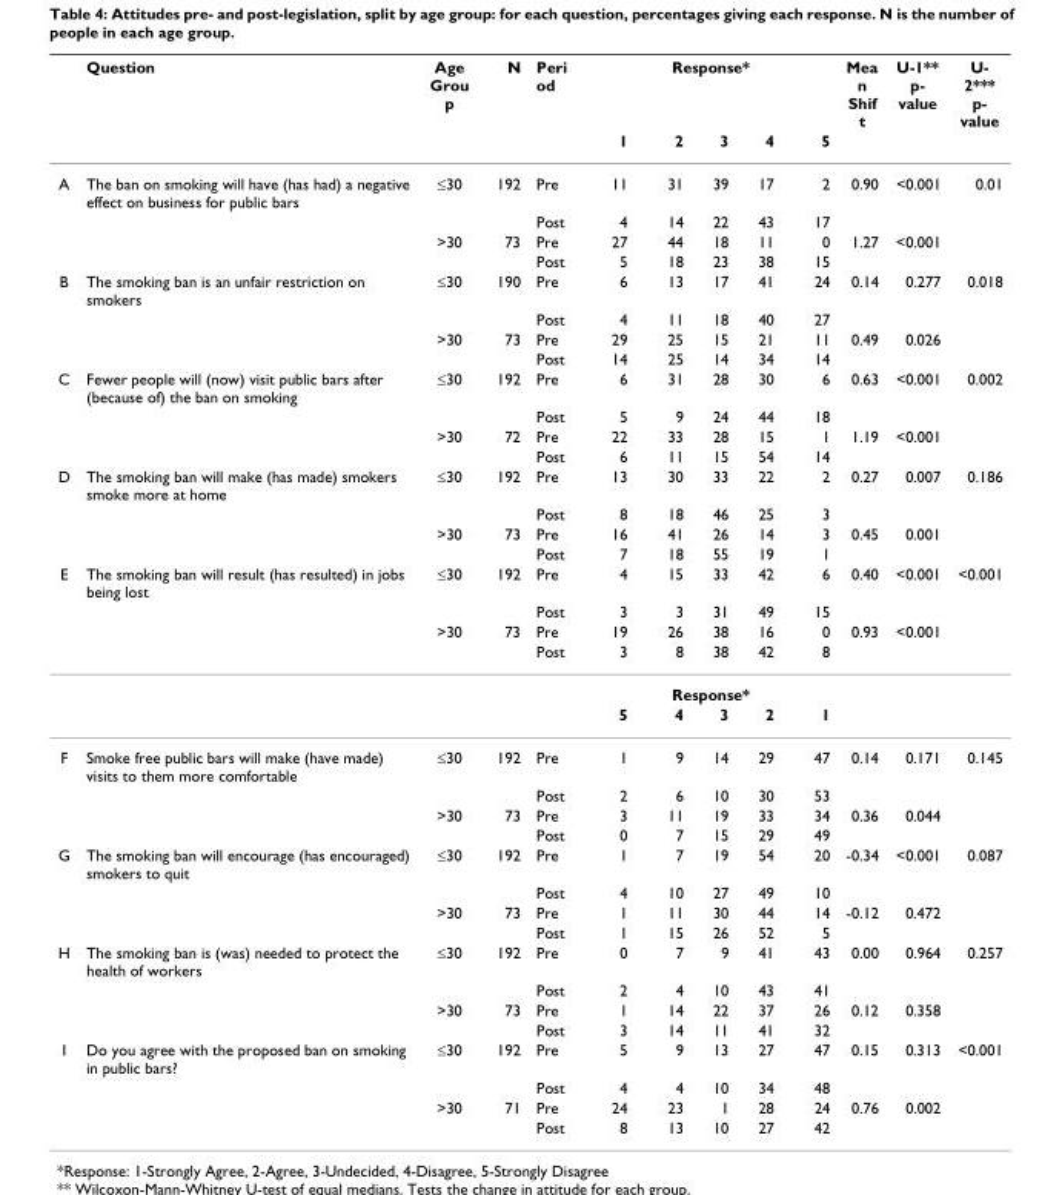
<table><thead><tr><td rowspan="2"></td><td rowspan="2">Question</td><td rowspan="2">Age Grou p</td><td rowspan="2">N</td><td rowspan="2">Peri od</td><td colspan="5">Response*</td><td rowspan="2">Mea n Shif t</td><td rowspan="2">U-1** p- value</td><td rowspan="2">U- 2*** p- value</td></tr><tr><td>1</td><td>2</td><td>3</td><td>4</td><td>5</td></tr></thead><tbody><tr><td rowspan="4">A</td><td>The ban on smoking will have (has had) a negative effect on business for public bars</td><td>≤30</td><td>192</td><td>Pre</td><td>11</td><td>31</td><td>39</td><td>17</td><td>2</td><td>0.90</td><td>&lt;0.001</td><td>0.01</td></tr><tr><td></td><td></td><td></td><td>Post</td><td>4</td><td>14</td><td>22</td><td>43</td><td>17</td><td></td><td></td><td></td></tr><tr><td></td><td>&gt;30</td><td>73</td><td>Pre</td><td>27</td><td>44</td><td>18</td><td>11</td><td>0</td><td>1.27</td><td>&lt;0.001</td><td></td></tr><tr><td></td><td></td><td></td><td>Post</td><td>5</td><td>18</td><td>23</td><td>38</td><td>15</td><td></td><td></td><td></td></tr><tr><td rowspan="4">B</td><td>The smoking ban is an unfair restriction on smokers</td><td>≤30</td><td>190</td><td>Pre</td><td>6</td><td>13</td><td>17</td><td>41</td><td>24</td><td>0.14</td><td>0.277</td><td>0.018</td></tr><tr><td></td><td></td><td></td><td>Post</td><td>4</td><td>11</td><td>18</td><td>40</td><td>27</td><td></td><td></td><td></td></tr><tr><td></td><td>&gt;30</td><td>73</td><td>Pre</td><td>29</td><td>25</td><td>15</td><td>21</td><td>11</td><td>0.49</td><td>0.026</td><td></td></tr><tr><td></td><td></td><td></td><td>Post</td><td>14</td><td>25</td><td>14</td><td>34</td><td>14</td><td></td><td></td><td></td></tr><tr><td rowspan="4">C</td><td>Fewer people will (now) visit public bars after (because of) the ban on smoking</td><td>≤30</td><td>192</td><td>Pre</td><td>6</td><td>31</td><td>28</td><td>30</td><td>6</td><td>0.63</td><td>&lt;0.001</td><td>0.002</td></tr><tr><td></td><td></td><td></td><td>Post</td><td>5</td><td>9</td><td>24</td><td>44</td><td>18</td><td></td><td></td><td></td></tr><tr><td></td><td>&gt;30</td><td>72</td><td>Pre</td><td>22</td><td>33</td><td>28</td><td>15</td><td>1</td><td>1.19</td><td>&lt;0.001</td><td></td></tr><tr><td></td><td></td><td></td><td>Post</td><td>6</td><td>11</td><td>15</td><td>54</td><td>14</td><td></td><td></td><td></td></tr><tr><td rowspan="4">D</td><td>The smoking ban will make (has made) smokers smoke more at home</td><td>≤30</td><td>192</td><td>Pre</td><td>13</td><td>30</td><td>33</td><td>22</td><td>2</td><td>0.27</td><td>0.007</td><td>0.186</td></tr><tr><td></td><td></td><td></td><td>Post</td><td>8</td><td>18</td><td>46</td><td>25</td><td>3</td><td></td><td></td><td></td></tr><tr><td></td><td>&gt;30</td><td>73</td><td>Pre</td><td>16</td><td>41</td><td>26</td><td>14</td><td>3</td><td>0.45</td><td>0.001</td><td></td></tr><tr><td></td><td></td><td></td><td>Post</td><td>7</td><td>18</td><td>55</td><td>19</td><td>1</td><td></td><td></td><td></td></tr><tr><td rowspan="6">E</td><td>The smoking ban will result (has resulted) in jobs being lost</td><td>≤30</td><td>192</td><td>Pre</td><td>4</td><td>15</td><td>33</td><td>42</td><td>6</td><td>0.40</td><td>&lt;0.001</td><td>&lt;0.001</td></tr><tr><td></td><td></td><td></td><td>Post</td><td>3</td><td>3</td><td>31</td><td>49</td><td>15</td><td></td><td></td><td></td></tr><tr><td></td><td>&gt;30</td><td>73</td><td>Pre</td><td>19</td><td>26</td><td>38</td><td>16</td><td>0</td><td>0.93</td><td>&lt;0.001</td><td></td></tr><tr><td></td><td></td><td></td><td>Post</td><td>3</td><td>8</td><td>38</td><td>42</td><td>8</td><td></td><td></td><td></td></tr><tr><td></td><td></td><td></td><td></td><td colspan="5">Response*</td><td></td><td></td><td></td></tr><tr><td></td><td></td><td></td><td></td><td>5</td><td>4</td><td>3</td><td>2</td><td>1</td><td></td><td></td><td></td></tr><tr><td rowspan="4">F</td><td>Smoke free public bars will make (have made) visits to them more comfortable</td><td>≤30</td><td>192</td><td>Pre</td><td>1</td><td>9</td><td>14</td><td>29</td><td>47</td><td>0.14</td><td>0.171</td><td>0.145</td></tr><tr><td></td><td></td><td></td><td>Post</td><td>2</td><td>6</td><td>10</td><td>30</td><td>53</td><td></td><td></td><td></td></tr><tr><td></td><td>&gt;30</td><td>73</td><td>Pre</td><td>3</td><td>11</td><td>19</td><td>33</td><td>34</td><td>0.36</td><td>0.044</td><td></td></tr><tr><td></td><td></td><td></td><td>Post</td><td>0</td><td>7</td><td>15</td><td>29</td><td>49</td><td></td><td></td><td></td></tr><tr><td rowspan="4">G</td><td>The smoking ban will encourage (has encouraged) smokers to quit</td><td>≤30</td><td>192</td><td>Pre</td><td>1</td><td>7</td><td>19</td><td>54</td><td>20</td><td>-0.34</td><td>&lt;0.001</td><td>0.087</td></tr><tr><td></td><td></td><td></td><td>Post</td><td>4</td><td>10</td><td>27</td><td>49</td><td>10</td><td></td><td></td><td></td></tr><tr><td></td><td>&gt;30</td><td>73</td><td>Pre</td><td>1</td><td>11</td><td>30</td><td>44</td><td>14</td><td>-0.12</td><td>0.472</td><td></td></tr><tr><td></td><td></td><td></td><td>Post</td><td>1</td><td>15</td><td>26</td><td>52</td><td>5</td><td></td><td></td><td></td></tr><tr><td rowspan="4">H</td><td>The smoking ban is (was) needed to protect the health of workers</td><td>≤30</td><td>192</td><td>Pre</td><td>0</td><td>7</td><td>9</td><td>41</td><td>43</td><td>0.00</td><td>0.964</td><td>0.257</td></tr><tr><td></td><td></td><td></td><td>Post</td><td>2</td><td>4</td><td>10</td><td>43</td><td>41</td><td></td><td></td><td></td></tr><tr><td></td><td>&gt;30</td><td>73</td><td>Pre</td><td>1</td><td>14</td><td>22</td><td>37</td><td>26</td><td>0.12</td><td>0.358</td><td></td></tr><tr><td></td><td></td><td></td><td>Post</td><td>3</td><td>14</td><td>11</td><td>41</td><td>32</td><td></td><td></td><td></td></tr><tr><td rowspan="4">I</td><td>Do you agree with the proposed ban on smoking in public bars?</td><td>≤30</td><td>192</td><td>Pre</td><td>5</td><td>9</td><td>13</td><td>27</td><td>47</td><td>0.15</td><td>0.313</td><td>&lt;0.001</td></tr><tr><td></td><td></td><td></td><td>Post</td><td>4</td><td>4</td><td>10</td><td>34</td><td>48</td><td></td><td></td><td></td></tr><tr><td></td><td>&gt;30</td><td>71</td><td>Pre</td><td>24</td><td>23</td><td>1</td><td>28</td><td>24</td><td>0.76</td><td>0.002</td><td></td></tr><tr><td></td><td></td><td></td><td>Post</td><td>8</td><td>13</td><td>10</td><td>27</td><td>42</td><td></td><td></td><td></td></tr></tbody></table>